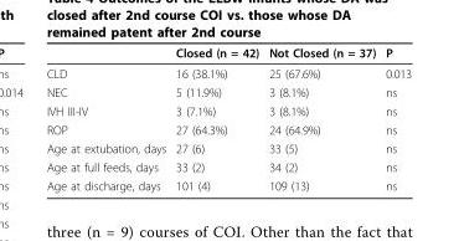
<table><thead><tr><td></td><td>Closed (n = 42)</td><td>Not Closed (n = 37)</td><td>P</td></tr></thead><tbody><tr><td>CLD</td><td>16 (38.1%)</td><td>25 (67.6%)</td><td>0.013</td></tr><tr><td>NEC</td><td>5 (11.9%)</td><td>3 (8.1%)</td><td>ns</td></tr><tr><td>IVH III-IV</td><td>3 (7.1%)</td><td>3 (8.1%)</td><td>ns</td></tr><tr><td>ROP</td><td>27 (64.3%)</td><td>24 (64.9%)</td><td>ns</td></tr><tr><td>Age at extubation, days</td><td>27 (6)</td><td>33 (5)</td><td>ns</td></tr><tr><td>Age at full feeds, days</td><td>33 (2)</td><td>34 (2)</td><td>ns</td></tr><tr><td>Age at discharge, days</td><td>101 (4)</td><td>109 (13)</td><td>ns</td></tr></tbody></table>